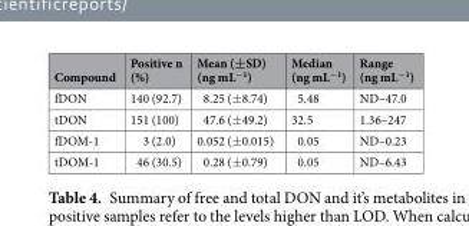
<table><thead><tr><td>Compound</td><td>Positive n (%)</td><td>Mean (±SD) (ng mL<sup>−1</sup>)</td><td>Median (ng mL<sup>−1</sup>)</td><td>Range (ng mL<sup>−1</sup>)</td></tr></thead><tbody><tr><td>fDON</td><td>140 (92.7)</td><td>8.25 (±8.74)</td><td>5.48</td><td>ND–47.0</td></tr><tr><td>tDON</td><td>151 (100)</td><td>47.6 (±49.2)</td><td>32.5</td><td>1.36–247</td></tr><tr><td>fDOM-1</td><td>3 (2.0)</td><td>0.052 (±0.015)</td><td>0.05</td><td>ND–0.23</td></tr><tr><td>tDOM-1</td><td>46 (30.5)</td><td>0.28 (±0.79)</td><td>0.05</td><td>ND–6.43</td></tr></tbody></table>